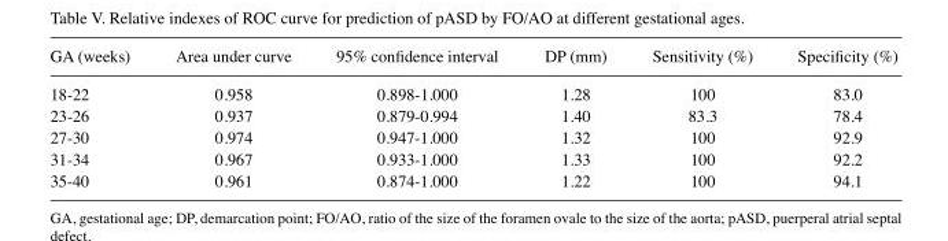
<table><thead><tr><td>GA (weeks)</td><td>Area under curve</td><td>95% confidence interval</td><td>DP (mm)</td><td>Sensitivity (%)</td><td>Specificity (%)</td></tr></thead><tbody><tr><td>18-22</td><td>0.958</td><td>0.898-1.000</td><td>1.28</td><td>100</td><td>83.0</td></tr><tr><td>23-26</td><td>0.937</td><td>0.879-0.994</td><td>1.40</td><td>83.3</td><td>78.4</td></tr><tr><td>27-30</td><td>0.974</td><td>0.947-1.000</td><td>1.32</td><td>100</td><td>92.9</td></tr><tr><td>31-34</td><td>0.967</td><td>0.933-1.000</td><td>1.33</td><td>100</td><td>92.2</td></tr><tr><td>35-40</td><td>0.961</td><td>0.874-1.000</td><td>1.22</td><td>100</td><td>94.1</td></tr></tbody></table>